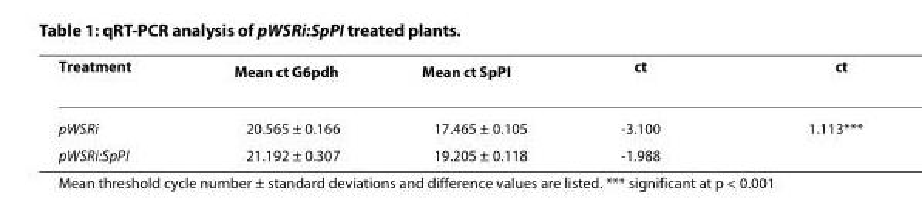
<table><thead><tr><td>Treatment</td><td>Mean ct G6pdh</td><td>Mean ct SpPI</td><td>ct</td><td>ct</td></tr></thead><tbody><tr><td>pWSRi</td><td>20.565 ± 0.166</td><td>17.465 ± 0.105</td><td>-3.100</td><td>1.113***</td></tr><tr><td>pWSRi:SpPI</td><td>21.192 ± 0.307</td><td>19.205 ± 0.118</td><td>-1.988</td><td></td></tr></tbody></table>